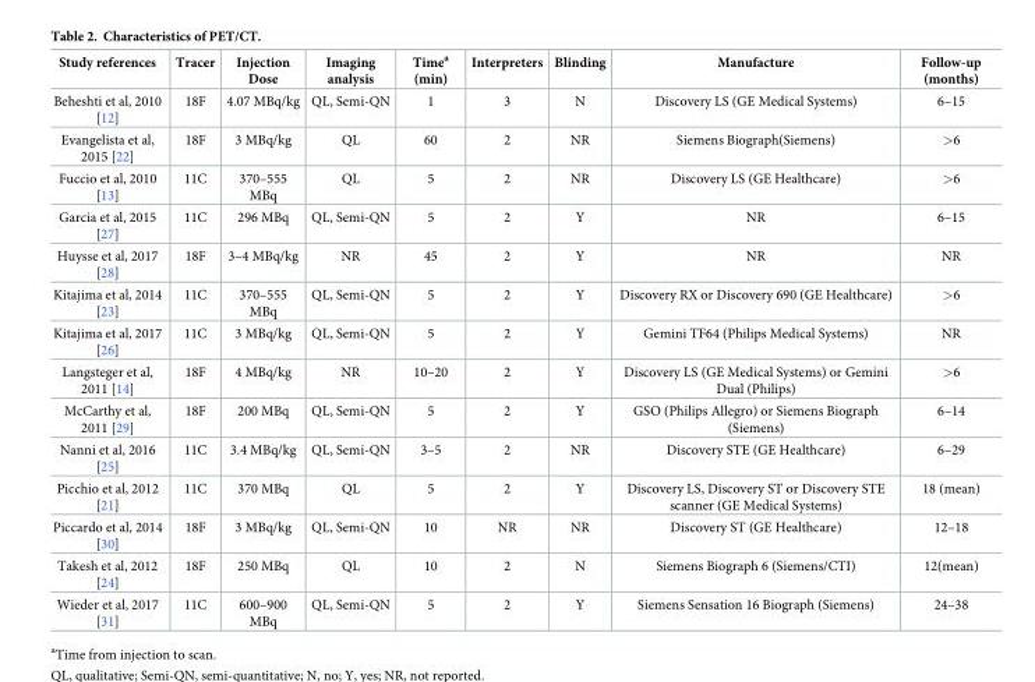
<table><thead><tr><td>Study references</td><td>Tracer</td><td>Injection Dose</td><td>Imaging analysis</td><td>Time<sup>a</sup> (min)</td><td>Interpreters</td><td>Blinding</td><td>Manufacture</td><td>Follow-up (months)</td></tr></thead><tbody><tr><td>Beheshti et al, 2010 [12]</td><td>18F</td><td>4.07 MBq/kg</td><td>QL, Semi-QN</td><td>1</td><td>3</td><td>N</td><td>Discovery LS (GE Medical Systems)</td><td>6–15</td></tr><tr><td>Evangelista et al, 2015 [22]</td><td>18F</td><td>3 MBq/kg</td><td>QL</td><td>60</td><td>2</td><td>NR</td><td>Siemens Biograph(Siemens)</td><td>&gt;6</td></tr><tr><td>Fuccio et al, 2010 [13]</td><td>11C</td><td>370–555 MBq</td><td>QL</td><td>5</td><td>2</td><td>NR</td><td>Discovery LS (GE Healthcare)</td><td>&gt;6</td></tr><tr><td>Garcia et al, 2015 [27]</td><td>11C</td><td>296 MBq</td><td>QL, Semi-QN</td><td>5</td><td>2</td><td>Y</td><td>NR</td><td>6–15</td></tr><tr><td>Huysse et al, 2017 [28]</td><td>18F</td><td>3–4 MBq/kg</td><td>NR</td><td>45</td><td>2</td><td>Y</td><td>NR</td><td>NR</td></tr><tr><td>Kitajima et al, 2014 [23]</td><td>11C</td><td>370–555 MBq</td><td>QL, Semi-QN</td><td>5</td><td>2</td><td>Y</td><td>Discovery RX or Discovery 690 (GE Healthcare)</td><td>&gt;6</td></tr><tr><td>Kitajima et al, 2017 [26]</td><td>11C</td><td>3 MBq/kg</td><td>QL, Semi-QN</td><td>5</td><td>2</td><td>Y</td><td>Gemini TF64 (Philips Medical Systems)</td><td>NR</td></tr><tr><td>Langsteger et al, 2011 [14]</td><td>18F</td><td>4 MBq/kg</td><td>NR</td><td>10–20</td><td>2</td><td>Y</td><td>Discovery LS (GE Medical Systems) or Gemini Dual (Philips)</td><td>&gt;6</td></tr><tr><td>McCarthy et al, 2011 [29]</td><td>18F</td><td>200 MBq</td><td>QL, Semi-QN</td><td>5</td><td>2</td><td>Y</td><td>GSO (Philips Allegro) or Siemens Biograph (Siemens)</td><td>6–14</td></tr><tr><td>Nanni et al, 2016 [25]</td><td>11C</td><td>3.4 MBq/kg</td><td>QL, Semi-QN</td><td>3–5</td><td>2</td><td>NR</td><td>Discovery STE (GE Healthcare)</td><td>6–29</td></tr><tr><td>Picchio et al, 2012 [21]</td><td>11C</td><td>370 MBq</td><td>QL</td><td>5</td><td>2</td><td>Y</td><td>Discovery LS, Discovery ST or Discovery STE scanner (GE Medical Systems)</td><td>18 (mean)</td></tr><tr><td>Piccardo et al, 2014 [30]</td><td>18F</td><td>3 MBq/kg</td><td>QL, Semi-QN</td><td>10</td><td>NR</td><td>NR</td><td>Discovery ST (GE Healthcare)</td><td>12–18</td></tr><tr><td>Takesh et al, 2012 [24]</td><td>18F</td><td>250 MBq</td><td>QL</td><td>10</td><td>2</td><td>N</td><td>Siemens Biograph 6 (Siemens/CTI)</td><td>12(mean)</td></tr><tr><td>Wieder et al, 2017 [31]</td><td>11C</td><td>600–900 MBq</td><td>QL, Semi-QN</td><td>5</td><td>2</td><td>Y</td><td>Siemens Sensation 16 Biograph (Siemens)</td><td>24–38</td></tr></tbody></table>